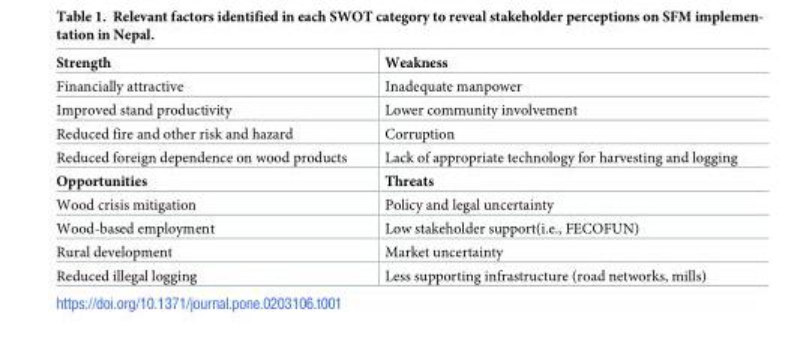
<table><tbody><tr><td>Strength</td><td>Weakness</td></tr><tr><td>Financially attractive</td><td>Inadequate manpower</td></tr><tr><td>Improved stand productivity</td><td>Lower community involvement</td></tr><tr><td>Reduced fire and other risk and hazard</td><td>Corruption</td></tr><tr><td>Reduced foreign dependence on wood products</td><td>Lack of appropriate technology for harvesting and logging</td></tr><tr><td>Opportunities</td><td>Threats</td></tr><tr><td>Wood crisis mitigation</td><td>Policy and legal uncertainty</td></tr><tr><td>Wood-based employment</td><td>Low stakeholder support(i.e., FECOFUN)</td></tr><tr><td>Rural development</td><td>Market uncertainty</td></tr><tr><td>Reduced illegal logging</td><td>Less supporting infrastructure (road networks, mills)</td></tr></tbody></table>